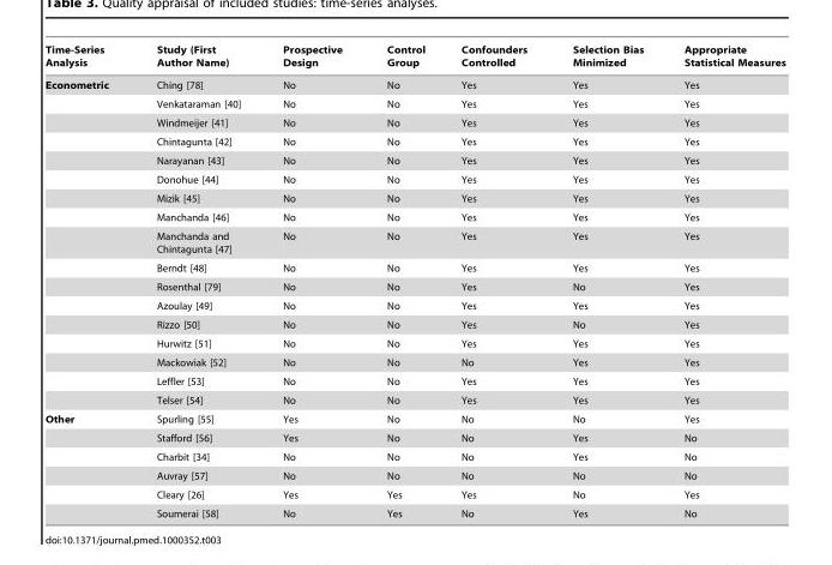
<table><thead><tr><td>Time-Series Analysis</td><td>Study (First Author Name)</td><td>Prospective Design</td><td>Control Group</td><td>Confounders Controlled</td><td>Selection Bias Minimized</td><td>Appropriate Statistical Measures</td></tr></thead><tbody><tr><td rowspan="17">Econometric</td><td>Ching [78]</td><td>No</td><td>No</td><td>Yes</td><td>Yes</td><td>Yes</td></tr><tr><td>Venkataraman [40]</td><td>No</td><td>No</td><td>Yes</td><td>Yes</td><td>Yes</td></tr><tr><td>Windmeijer [41]</td><td>No</td><td>No</td><td>Yes</td><td>Yes</td><td>Yes</td></tr><tr><td>Chintagunta [42]</td><td>No</td><td>No</td><td>Yes</td><td>Yes</td><td>Yes</td></tr><tr><td>Narayanan [43]</td><td>No</td><td>No</td><td>Yes</td><td>Yes</td><td>Yes</td></tr><tr><td>Donohue [44]</td><td>No</td><td>No</td><td>Yes</td><td>Yes</td><td>Yes</td></tr><tr><td>Mizik [45]</td><td>No</td><td>No</td><td>Yes</td><td>Yes</td><td>Yes</td></tr><tr><td>Manchanda [46]</td><td>No</td><td>No</td><td>Yes</td><td>Yes</td><td>Yes</td></tr><tr><td>Manchanda and Chintagunta [47]</td><td>No</td><td>No</td><td>Yes</td><td>Yes</td><td>Yes</td></tr><tr><td>Berndt [48]</td><td>No</td><td>No</td><td>Yes</td><td>Yes</td><td>Yes</td></tr><tr><td>Rosenthal [79]</td><td>No</td><td>No</td><td>Yes</td><td>No</td><td>Yes</td></tr><tr><td>Azoulay [49]</td><td>No</td><td>No</td><td>Yes</td><td>Yes</td><td>Yes</td></tr><tr><td>Rizzo [50]</td><td>No</td><td>No</td><td>Yes</td><td>No</td><td>Yes</td></tr><tr><td>Hurwitz [51]</td><td>No</td><td>No</td><td>Yes</td><td>Yes</td><td>Yes</td></tr><tr><td>Mackowiak [52]</td><td>No</td><td>No</td><td>No</td><td>Yes</td><td>Yes</td></tr><tr><td>Leffler [53]</td><td>No</td><td>No</td><td>Yes</td><td>Yes</td><td>Yes</td></tr><tr><td>Telser [54]</td><td>No</td><td>No</td><td>Yes</td><td>Yes</td><td>Yes</td></tr><tr><td rowspan="6">Other</td><td>Spurling [55]</td><td>Yes</td><td>No</td><td>No</td><td>No</td><td>Yes</td></tr><tr><td>Stafford [56]</td><td>Yes</td><td>No</td><td>No</td><td>Yes</td><td>No</td></tr><tr><td>Charbit [34]</td><td>No</td><td>No</td><td>No</td><td>Yes</td><td>No</td></tr><tr><td>Auvray [57]</td><td>No</td><td>No</td><td>No</td><td>No</td><td>No</td></tr><tr><td>Cleary [26]</td><td>Yes</td><td>Yes</td><td>Yes</td><td>No</td><td>Yes</td></tr><tr><td>Soumerai [58]</td><td>No</td><td>Yes</td><td>No</td><td>Yes</td><td>No</td></tr></tbody></table>